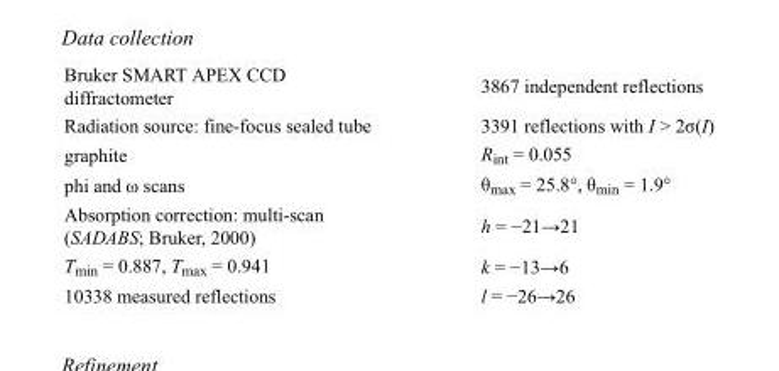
<table><tbody><tr><td>Bruker SMART APEX CCD diffractometer</td><td>3867 independent reflections</td></tr><tr><td>Radiation source: fine-focus sealed tube</td><td>3391 reflections with I &gt; 2σ(I)</td></tr><tr><td>graphite</td><td>R<sub>int</sub> = 0.055</td></tr><tr><td>phi and ω scans</td><td>θ<sub>max</sub> = 25.8°, θ<sub>min</sub> = 1.9°</td></tr><tr><td>Absorption correction: multi-scan (SADABS; Bruker, 2000)</td><td>h = −21→21</td></tr><tr><td>T<sub>min</sub> = 0.887, T<sub>max</sub> = 0.941</td><td>k = −13→6</td></tr><tr><td>10338 measured reflections</td><td>l = −26→26</td></tr></tbody></table>